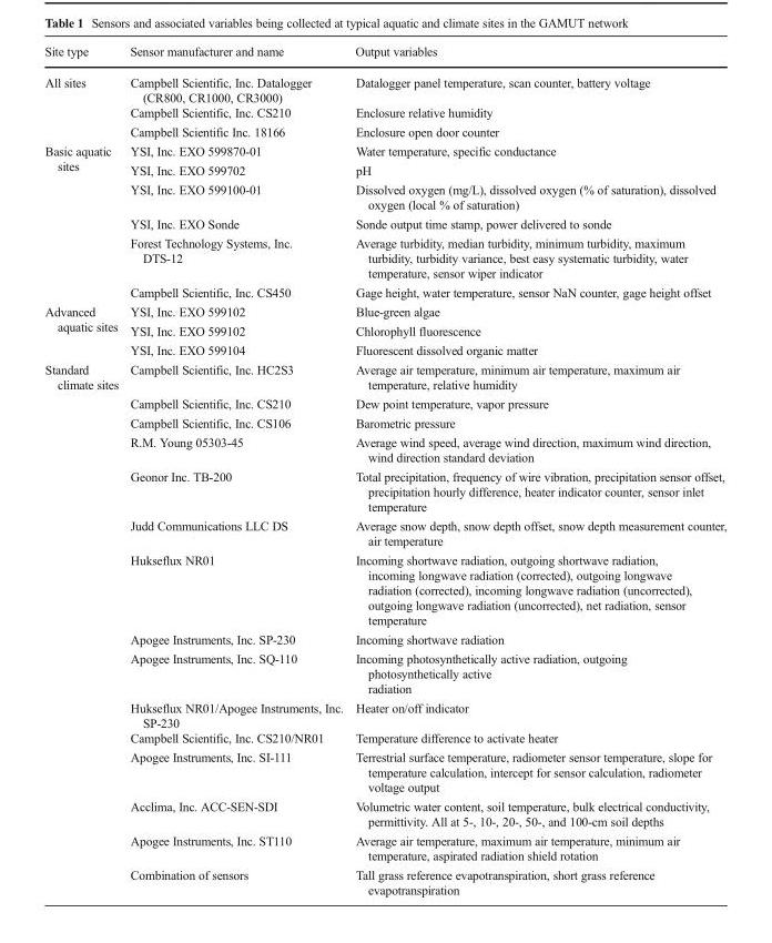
<table><thead><tr><td>Site type</td><td>Sensor manufacturer and name</td><td>Output variables</td></tr></thead><tbody><tr><td rowspan="3">All sites</td><td>Campbell Scientific, Inc. Datalogger (CR800, CR1000, CR3000)</td><td>Datalogger panel temperature, scan counter, battery voltage</td></tr><tr><td>Campbell Scientific, Inc. CS210</td><td>Enclosure relative humidity</td></tr><tr><td>Campbell Scientific Inc. 18166</td><td>Enclosure open door counter</td></tr><tr><td rowspan="6">Basic aquatic sites</td><td>YSI, Inc. EXO 599870-01</td><td>Water temperature, specific conductance</td></tr><tr><td>YSI, Inc. EXO 599702</td><td>pH</td></tr><tr><td>YSI, Inc. EXO 599100-01</td><td>Dissolved oxygen (mg/L), dissolved oxygen (% of saturation), dissolved oxygen (local % of saturation)</td></tr><tr><td>YSI, Inc. EXO Sonde</td><td>Sonde output time stamp, power delivered to sonde</td></tr><tr><td>Forest Technology Systems, Inc. DTS-12</td><td>Average turbidity, median turbidity, minimum turbidity, maximum turbidity, turbidity variance, best easy systematic turbidity, water temperature, sensor wiper indicator</td></tr><tr><td>Campbell Scientific, Inc. CS450</td><td>Gage height, water temperature, sensor NaN counter, gage height offset</td></tr><tr><td rowspan="3">Advanced aquatic sites</td><td>YSI, Inc. EXO 599102</td><td>Blue-green algae</td></tr><tr><td>YSI, Inc. EXO 599102</td><td>Chlorophyll fluorescence</td></tr><tr><td>YSI, Inc. EXO 599104</td><td>Fluorescent dissolved organic matter</td></tr><tr><td rowspan="15">Standard climate sites</td><td>Campbell Scientific, Inc. HC2S3</td><td>Average air temperature, minimum air temperature, maximum air temperature, relative humidity</td></tr><tr><td>Campbell Scientific, Inc. CS210</td><td>Dew point temperature, vapor pressure</td></tr><tr><td>Campbell Scientific, Inc. CS106</td><td>Barometric pressure</td></tr><tr><td>R.M. Young 05303-45</td><td>Average wind speed, average wind direction, maximum wind direction, wind direction standard deviation</td></tr><tr><td>Geonor Inc. TB-200</td><td>Total precipitation, frequency of wire vibration, precipitation sensor offset, precipitation hourly difference, heater indicator counter, sensor inlet temperature</td></tr><tr><td>Judd Communications LLC DS</td><td>Average snow depth, snow depth offset, snow depth measurement counter, air temperature</td></tr><tr><td>Hukseflux NR01</td><td>Incoming shortwave radiation, outgoing shortwave radiation, incoming longwave radiation (corrected), outgoing longwave radiation (corrected), incoming longwave radiation (uncorrected), outgoing longwave radiation (uncorrected), net radiation, sensor temperature</td></tr><tr><td>Apogee Instruments, Inc. SP-230</td><td>Incoming shortwave radiation</td></tr><tr><td>Apogee Instruments, Inc. SQ-110</td><td>Incoming photosynthetically active radiation, outgoing photosynthetically active radiation</td></tr><tr><td>Hukseflux NR01/Apogee Instruments, Inc. SP-230</td><td>Heater on/off indicator</td></tr><tr><td>Campbell Scientific, Inc. CS210/NR01</td><td>Temperature difference to activate heater</td></tr><tr><td>Apogee Instruments, Inc. SI-111</td><td>Terrestrial surface temperature, radiometer sensor temperature, slope for temperature calculation, intercept for sensor calculation, radiometer voltage output</td></tr><tr><td>Acclima, Inc. ACC-SEN-SDI</td><td>Volumetric water content, soil temperature, bulk electrical conductivity, permittivity. All at 5-, 10-, 20-, 50-, and 100-cm soil depths</td></tr><tr><td>Apogee Instruments, Inc. ST110</td><td>Average air temperature, maximum air temperature, minimum air temperature, aspirated radiation shield rotation</td></tr><tr><td>Combination of sensors</td><td>Tall grass reference evapotranspiration, short grass reference evapotranspiration</td></tr></tbody></table>